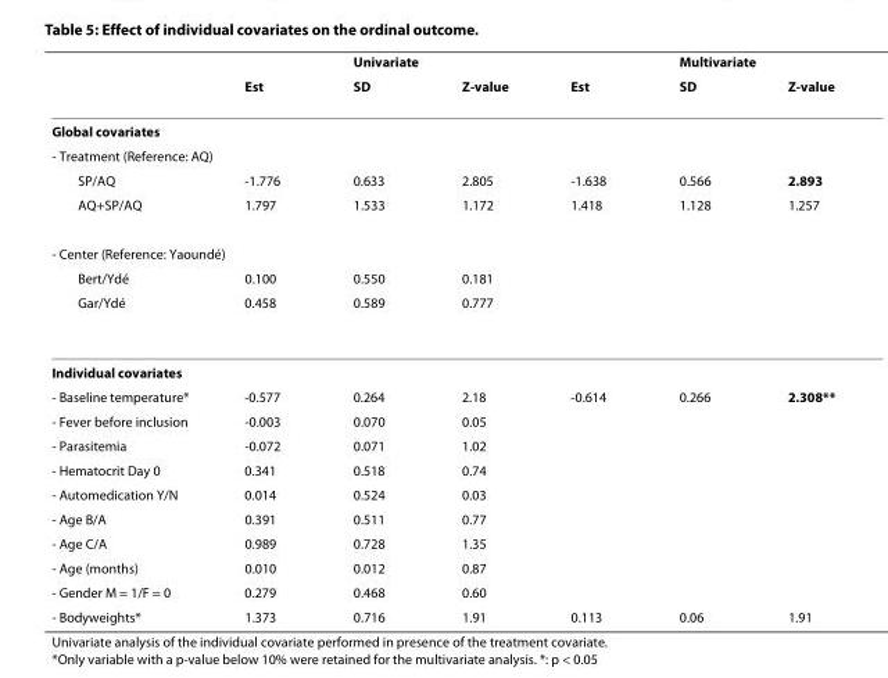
<table><thead><tr><td rowspan="2"></td><td rowspan="2">Est</td><td rowspan="2">Univariate SD</td><td rowspan="2">Z-value</td><td rowspan="2">Est</td><td rowspan="2">Multivariate SD</td><td rowspan="2">Z-value</td></tr><tr></tr></thead><tbody><tr><td colspan="7">Global covariates</td></tr><tr><td colspan="7">- Treatment (Reference: AQ)</td></tr><tr><td>SP/AQ</td><td>-1.776</td><td>0.633</td><td>2.805</td><td>-1.638</td><td>0.566</td><td>2.893</td></tr><tr><td>AQ+SP/AQ</td><td>1.797</td><td>1.533</td><td>1.172</td><td>1.418</td><td>1.128</td><td>1.257</td></tr><tr><td colspan="7">- Center (Reference: Yaoundé)</td></tr><tr><td>Bert/Ydé</td><td>0.100</td><td>0.550</td><td>0.181</td><td></td><td></td><td></td></tr><tr><td>Gar/Ydé</td><td>0.458</td><td>0.589</td><td>0.777</td><td></td><td></td><td></td></tr><tr><td colspan="7">Individual covariates</td></tr><tr><td>- Baseline temperature*</td><td>-0.577</td><td>0.264</td><td>2.18</td><td>-0.614</td><td>0.266</td><td>2.308**</td></tr><tr><td>- Fever before inclusion</td><td>-0.003</td><td>0.070</td><td>0.05</td><td></td><td></td><td></td></tr><tr><td>- Parasitemia</td><td>-0.072</td><td>0.071</td><td>1.02</td><td></td><td></td><td></td></tr><tr><td>- Hematocrit Day 0</td><td>0.341</td><td>0.518</td><td>0.74</td><td></td><td></td><td></td></tr><tr><td>- Automedication Y/N</td><td>0.014</td><td>0.524</td><td>0.03</td><td></td><td></td><td></td></tr><tr><td>- Age B/A</td><td>0.391</td><td>0.511</td><td>0.77</td><td></td><td></td><td></td></tr><tr><td>- Age C/A</td><td>0.989</td><td>0.728</td><td>1.35</td><td></td><td></td><td></td></tr><tr><td>- Age (months)</td><td>0.010</td><td>0.012</td><td>0.87</td><td></td><td></td><td></td></tr><tr><td>- Gender M = 1/F = 0</td><td>0.279</td><td>0.468</td><td>0.60</td><td></td><td></td><td></td></tr><tr><td>- Bodyweights*</td><td>1.373</td><td>0.716</td><td>1.91</td><td>0.113</td><td>0.06</td><td>1.91</td></tr></tbody></table>